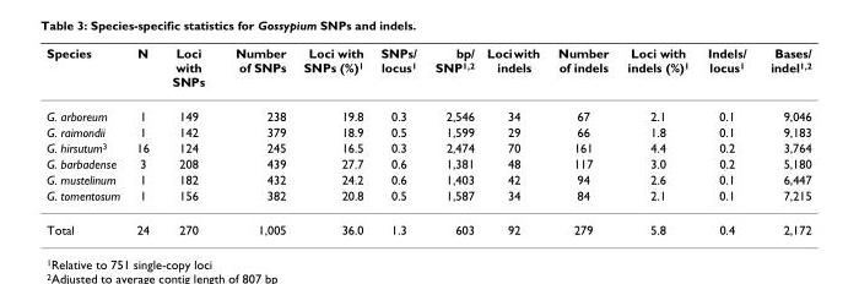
<table><thead><tr><td>Species</td><td>N</td><td>Loci with SNPs</td><td>Number of SNPs</td><td>Loci with SNPs (%)<sup>1</sup></td><td>SNPs/ locus<sup>1</sup></td><td>bp/ SNP<sup>1,2</sup></td><td>Loci with indels</td><td>Number of indels</td><td>Loci with indels (%)<sup>1</sup></td><td>Indels/ locus<sup>1</sup></td><td>Bases/ indel<sup>1,2</sup></td></tr></thead><tbody><tr><td>G. arboreum</td><td>1</td><td>149</td><td>238</td><td>19.8</td><td>0.3</td><td>2,546</td><td>34</td><td>67</td><td>2.1</td><td>0.1</td><td>9,046</td></tr><tr><td>G. raimondii</td><td>1</td><td>142</td><td>379</td><td>18.9</td><td>0.5</td><td>1,599</td><td>29</td><td>66</td><td>1.8</td><td>0.1</td><td>9,183</td></tr><tr><td>G. hirsutum<sup>3</sup></td><td>16</td><td>124</td><td>245</td><td>16.5</td><td>0.3</td><td>2,474</td><td>70</td><td>161</td><td>4.4</td><td>0.2</td><td>3,764</td></tr><tr><td>G. barbadense</td><td>3</td><td>208</td><td>439</td><td>27.7</td><td>0.6</td><td>1,381</td><td>48</td><td>117</td><td>3.0</td><td>0.2</td><td>5,180</td></tr><tr><td>G. mustelinum</td><td>1</td><td>182</td><td>432</td><td>24.2</td><td>0.6</td><td>1,403</td><td>42</td><td>94</td><td>2.6</td><td>0.1</td><td>6,447</td></tr><tr><td>G. tomentosum</td><td>1</td><td>156</td><td>382</td><td>20.8</td><td>0.5</td><td>1,587</td><td>34</td><td>84</td><td>2.1</td><td>0.1</td><td>7,215</td></tr><tr><td>Total</td><td>24</td><td>270</td><td>1,005</td><td>36.0</td><td>1.3</td><td>603</td><td>92</td><td>279</td><td>5.8</td><td>0.4</td><td>2,172</td></tr></tbody></table>